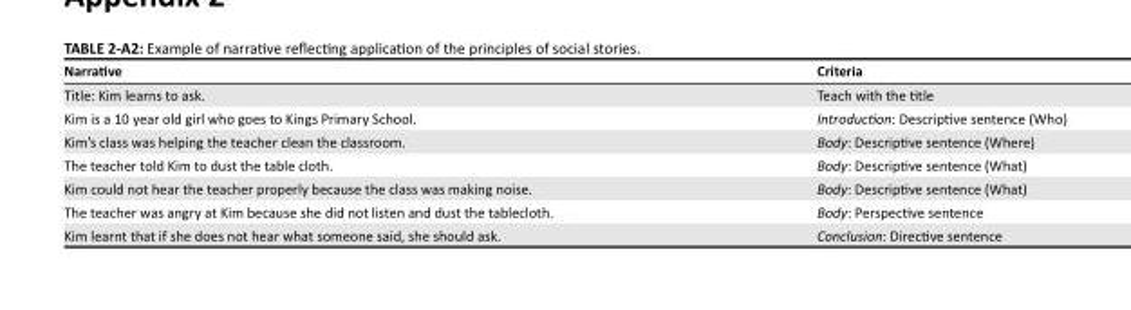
<table><thead><tr><td>Narrative</td><td>Criteria</td></tr></thead><tbody><tr><td>Title: Kim learns to ask.</td><td>Teach with the title</td></tr><tr><td>Kim is a 10 year old girl who goes to Kings Primary School.</td><td>Introduction: Descriptive sentence (Who)</td></tr><tr><td>Kim’s class was helping the teacher clean the classroom.</td><td>Body: Descriptive sentence (Where)</td></tr><tr><td>The teacher told Kim to dust the table cloth.</td><td>Body: Descriptive sentence (What)</td></tr><tr><td>Kim could not hear the teacher properly because the class was making noise.</td><td>Body: Descriptive sentence (What)</td></tr><tr><td>The teacher was angry at Kim because she did not listen and dust the tablecloth.</td><td>Body: Perspective sentence</td></tr><tr><td>Kim learnt that if she does not hear what someone said, she should ask.</td><td>Conclusion: Directive sentence</td></tr></tbody></table>